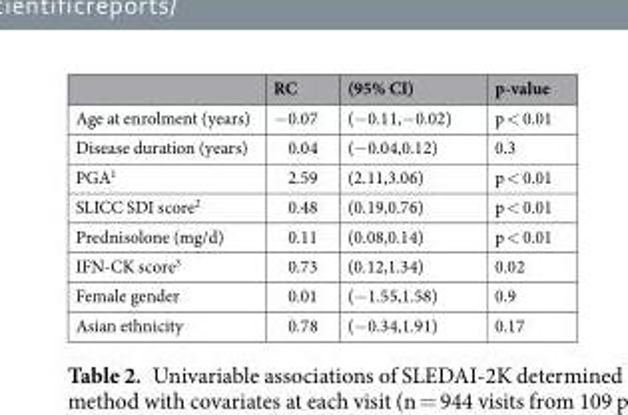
<table><thead><tr><td></td><td>RC</td><td>(95% CI)</td><td>p-value</td></tr></thead><tbody><tr><td>Age at enrolment (years)</td><td>−0.07</td><td>(−0.11,−0.02)</td><td>p &lt; 0.01</td></tr><tr><td>Disease duration (years)</td><td>0.04</td><td>(−0.04,0.12)</td><td>0.3</td></tr><tr><td>PGA<sup>1</sup></td><td>2.59</td><td>(2.11,3.06)</td><td>p &lt; 0.01</td></tr><tr><td>SLICC SDI score<sup>2</sup></td><td>0.48</td><td>(0.19,0.76)</td><td>p &lt; 0.01</td></tr><tr><td>Prednisolone (mg/d)</td><td>0.11</td><td>(0.08,0.14)</td><td>p &lt; 0.01</td></tr><tr><td>IFN-CK score<sup>3</sup></td><td>0.73</td><td>(0.12,1.34)</td><td>0.02</td></tr><tr><td>Female gender</td><td>0.01</td><td>(−1.55,1.58)</td><td>0.9</td></tr><tr><td>Asian ethnicity</td><td>0.78</td><td>(−0.34,1.91)</td><td>0.17</td></tr></tbody></table>